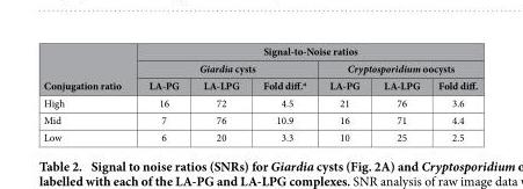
<table><thead><tr><td rowspan="3">Conjugation ratio</td><td colspan="6">Signal-to-Noise ratios</td></tr><tr><td colspan="3">Giardia cysts</td><td colspan="3">Cryptosporidium oocysts</td></tr><tr><td>LA-PG</td><td>LA-LPG</td><td>Fold diff.<sup>a</sup></td><td>LA-PG</td><td>LA-LPG</td><td>Fold diff.</td></tr></thead><tbody><tr><td>High</td><td>16</td><td>72</td><td>4.5</td><td>21</td><td>76</td><td>3.6</td></tr><tr><td>Mid</td><td>7</td><td>76</td><td>10.9</td><td>16</td><td>71</td><td>4.4</td></tr><tr><td>Low</td><td>6</td><td>20</td><td>3.3</td><td>10</td><td>25</td><td>2.5</td></tr></tbody></table>